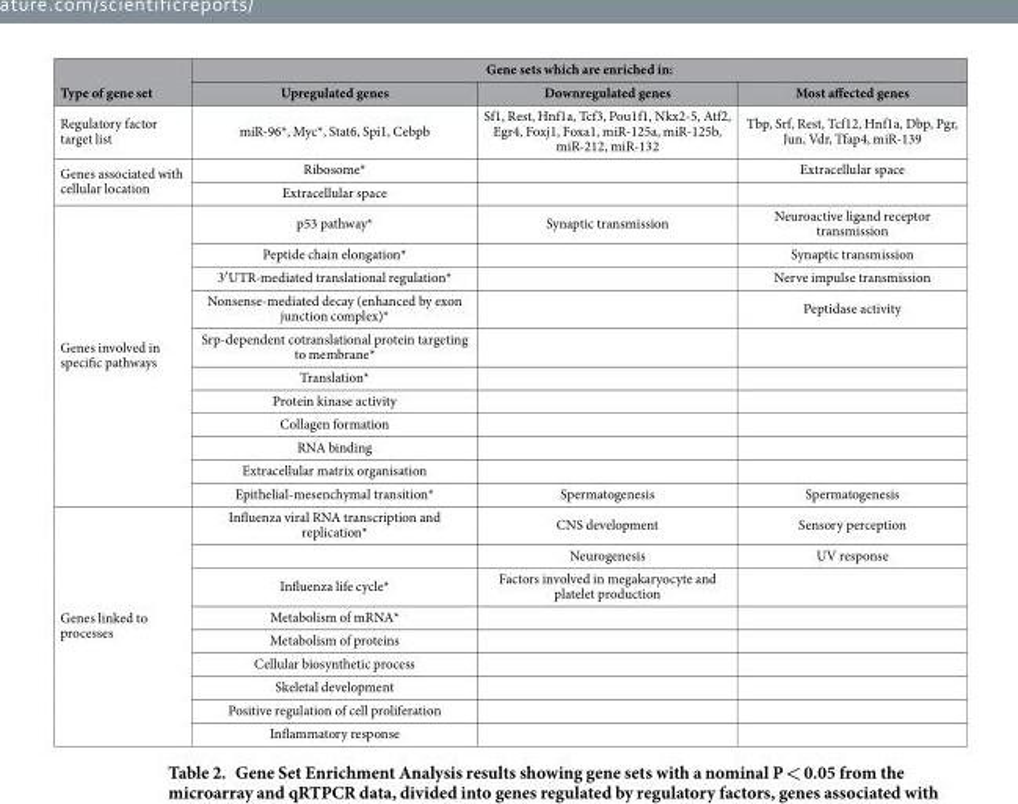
<table><thead><tr><td rowspan="2">Type of gene set</td><td colspan="3">Gene sets which are enriched in:</td></tr><tr><td>Upregulated genes</td><td>Downregulated genes</td><td>Most affected genes</td></tr></thead><tbody><tr><td>Regulatory factor target list</td><td>miR-96*, Myc*, Stat6, Spi1, Cebpb</td><td>Sf1, Rest, Hnf1a, Tcf3, Pou1f1, Nkx2-5, Atf2, Egr4, Foxj1, Foxa1, miR-125a, miR-125b, miR-212, miR-132</td><td>Tbp, Srf, Rest, Tcf12, Hnf1a, Dbp, Pgr, Jun, Vdr, Tfap4, miR-139</td></tr><tr><td rowspan="2">Genes associated with cellular location</td><td>Ribosome*</td><td></td><td>Extracellular space</td></tr><tr><td>Extracellular space</td><td></td><td></td></tr><tr><td rowspan="11">Genes involved in specific pathways</td><td>p53 pathway*</td><td>Synaptic transmission</td><td>Neuroactive ligand receptor transmission</td></tr><tr><td>Peptide chain elongation*</td><td></td><td>Synaptic transmission</td></tr><tr><td>3′ UTR-mediated translational regulation*</td><td></td><td>Nerve impulse transmission</td></tr><tr><td>Nonsense-mediated decay (enhanced by exon junction complex)*</td><td></td><td>Peptidase activity</td></tr><tr><td>Srp-dependent cotranslational protein targeting to membrane*</td><td></td><td></td></tr><tr><td>Translation*</td><td></td><td></td></tr><tr><td>Protein kinase activity</td><td></td><td></td></tr><tr><td>Collagen formation</td><td></td><td></td></tr><tr><td>RNA binding</td><td></td><td></td></tr><tr><td>Extracellular matrix organisation</td><td></td><td></td></tr><tr><td>Epithelial-mesenchymal transition*</td><td>Spermatogenesis</td><td>Spermatogenesis</td></tr><tr><td rowspan="9">Genes linked to processes</td><td>Influenza viral RNA transcription and replication*</td><td>CNS development</td><td>Sensory perception</td></tr><tr><td></td><td>Neurogenesis</td><td>UV response</td></tr><tr><td>Influenza life cycle*</td><td>Factors involved in megakaryocyte and platelet production</td><td></td></tr><tr><td>Metabolism of mRNA*</td><td></td><td></td></tr><tr><td>Metabolism of proteins</td><td></td><td></td></tr><tr><td>Cellular biosynthetic process</td><td></td><td></td></tr><tr><td>Skeletal development</td><td></td><td></td></tr><tr><td>Positive regulation of cell proliferation</td><td></td><td></td></tr><tr><td>Inflammatory response</td><td></td><td></td></tr></tbody></table>